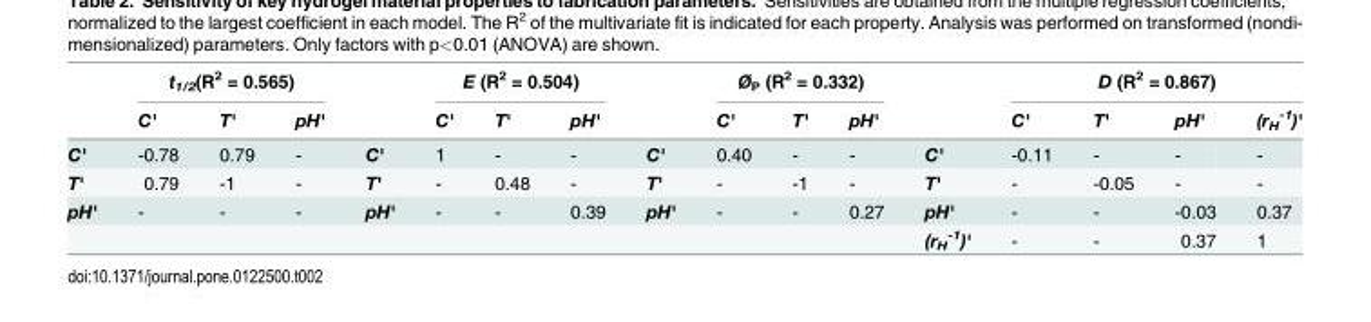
<table><thead><tr><td rowspan="2"></td><td colspan="3">t<sub>1/2</sub>(R<sup>2</sup> = 0.565)</td><td rowspan="2"></td><td colspan="3">E (R<sup>2</sup> = 0.504)</td><td rowspan="2"></td><td colspan="3">Ø<sub>P</sub> (R<sup>2</sup> = 0.332)</td><td rowspan="2"></td><td colspan="4">D (R<sup>2</sup> = 0.867)</td></tr><tr><td>C&#x27;</td><td>T&#x27;</td><td>pH&#x27;</td><td>C&#x27;</td><td>T&#x27;</td><td>pH&#x27;</td><td>C&#x27;</td><td>T&#x27;</td><td>pH&#x27;</td><td>C&#x27;</td><td>T&#x27;</td><td>pH&#x27;</td><td>(r<sub>H</sub> <sup>-1</sup>)&#x27;</td></tr></thead><tbody><tr><td>C&#x27;</td><td>-0.78</td><td>0.79</td><td>-</td><td>C&#x27;</td><td>1</td><td>-</td><td>-</td><td>C&#x27;</td><td>0.40</td><td>-</td><td>-</td><td>C&#x27;</td><td>-0.11</td><td>-</td><td>-</td><td>-</td></tr><tr><td>T&#x27;</td><td>0.79</td><td>-1</td><td>-</td><td>T&#x27;</td><td>-</td><td>0.48</td><td>-</td><td>T&#x27;</td><td>-</td><td>-1</td><td>-</td><td>T&#x27;</td><td>-</td><td>-0.05</td><td>-</td><td>-</td></tr><tr><td rowspan="2">pH&#x27;</td><td>-</td><td>-</td><td>-</td><td>pH&#x27;</td><td>-</td><td>-</td><td>0.39</td><td>pH&#x27;</td><td>-</td><td>-</td><td>0.27</td><td>pH&#x27;</td><td>-</td><td>-</td><td>-0.03</td><td>0.37</td></tr><tr><td></td><td></td><td></td><td></td><td></td><td></td><td></td><td></td><td></td><td></td><td></td><td>(r<sub>H</sub> <sup>-1</sup>)&#x27;</td><td>-</td><td>-</td><td>0.37</td><td>1</td></tr></tbody></table>